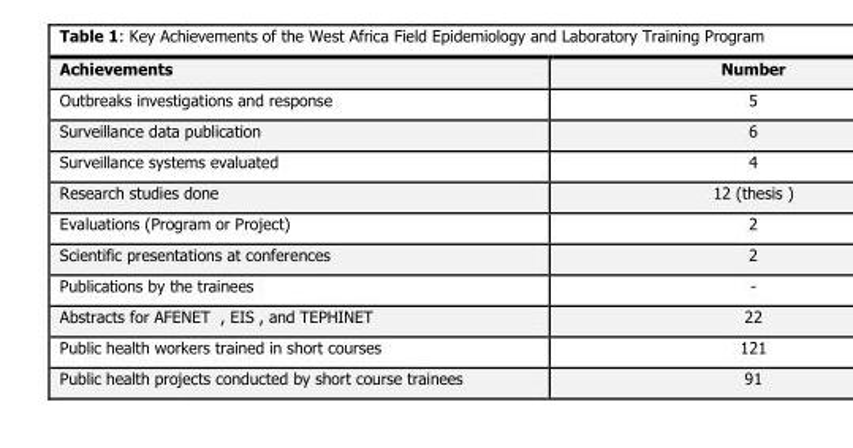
<table><thead><tr><td>Achievements</td><td>Number</td></tr></thead><tbody><tr><td>Outbreaks investigations and response</td><td>5</td></tr><tr><td>Surveillance data publication</td><td>6</td></tr><tr><td>Surveillance systems evaluated</td><td>4</td></tr><tr><td>Research studies done</td><td>12 (thesis )</td></tr><tr><td>Evaluations (Program or Project)</td><td>2</td></tr><tr><td>Scientific presentations at conferences</td><td>2</td></tr><tr><td>Publications by the trainees</td><td>-</td></tr><tr><td>Abstracts for AFENET , EIS , and TEPHINET</td><td>22</td></tr><tr><td>Public health workers trained in short courses</td><td>121</td></tr><tr><td>Public health projects conducted by short course trainees</td><td>91</td></tr></tbody></table>